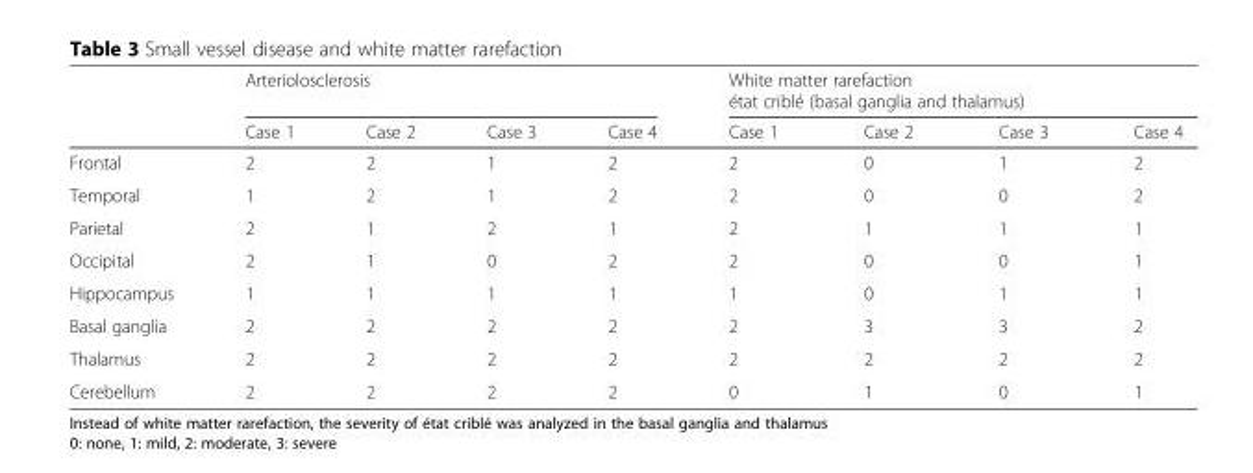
<table><thead><tr><td rowspan="2"></td><td colspan="4">Arteriolosclerosis</td><td colspan="4">White matter rarefaction état criblé (basal ganglia and thalamus)</td></tr><tr><td>Case 1</td><td>Case 2</td><td>Case 3</td><td>Case 4</td><td>Case 1</td><td>Case 2</td><td>Case 3</td><td>Case 4</td></tr></thead><tbody><tr><td>Frontal</td><td>2</td><td>2</td><td>1</td><td>2</td><td>2</td><td>0</td><td>1</td><td>2</td></tr><tr><td>Temporal</td><td>1</td><td>2</td><td>1</td><td>2</td><td>2</td><td>0</td><td>0</td><td>2</td></tr><tr><td>Parietal</td><td>2</td><td>1</td><td>2</td><td>1</td><td>2</td><td>1</td><td>1</td><td>1</td></tr><tr><td>Occipital</td><td>2</td><td>1</td><td>0</td><td>2</td><td>2</td><td>0</td><td>0</td><td>1</td></tr><tr><td>Hippocampus</td><td>1</td><td>1</td><td>1</td><td>1</td><td>1</td><td>0</td><td>1</td><td>1</td></tr><tr><td>Basal ganglia</td><td>2</td><td>2</td><td>2</td><td>2</td><td>2</td><td>3</td><td>3</td><td>2</td></tr><tr><td>Thalamus</td><td>2</td><td>2</td><td>2</td><td>2</td><td>2</td><td>2</td><td>2</td><td>2</td></tr><tr><td>Cerebellum</td><td>2</td><td>2</td><td>2</td><td>2</td><td>0</td><td>1</td><td>0</td><td>1</td></tr></tbody></table>